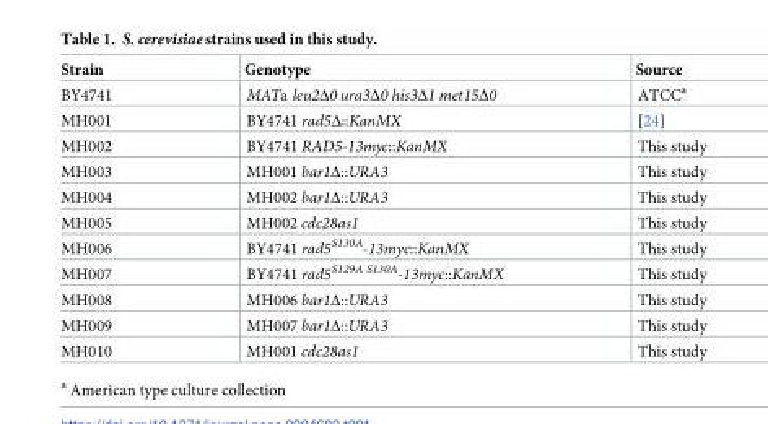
<table><thead><tr><td>Strain</td><td>Genotype</td><td>Source</td></tr></thead><tbody><tr><td>BY4741</td><td>MATa leu2Δ0 ura3Δ0 his3Δ1 met15Δ0</td><td>ATCC<sup>a</sup></td></tr><tr><td>MH001</td><td>BY4741 rad5Δ::KanMX</td><td>[24]</td></tr><tr><td>MH002</td><td>BY4741 RAD5-13myc::KanMX</td><td>This study</td></tr><tr><td>MH003</td><td>MH001 bar1Δ::URA3</td><td>This study</td></tr><tr><td>MH004</td><td>MH002 bar1Δ::URA3</td><td>This study</td></tr><tr><td>MH005</td><td>MH002 cdc28as1</td><td>This study</td></tr><tr><td>MH006</td><td>BY4741 rad5<sup>S130A</sup>-13myc::KanMX</td><td>This study</td></tr><tr><td>MH007</td><td>BY4741 rad5<sup>S129A S130A</sup>-13myc::KanMX</td><td>This study</td></tr><tr><td>MH008</td><td>MH006 bar1Δ::URA3</td><td>This study</td></tr><tr><td>MH009</td><td>MH007 bar1Δ::URA3</td><td>This study</td></tr><tr><td>MH010</td><td>MH001 cdc28as1</td><td>This study</td></tr></tbody></table>